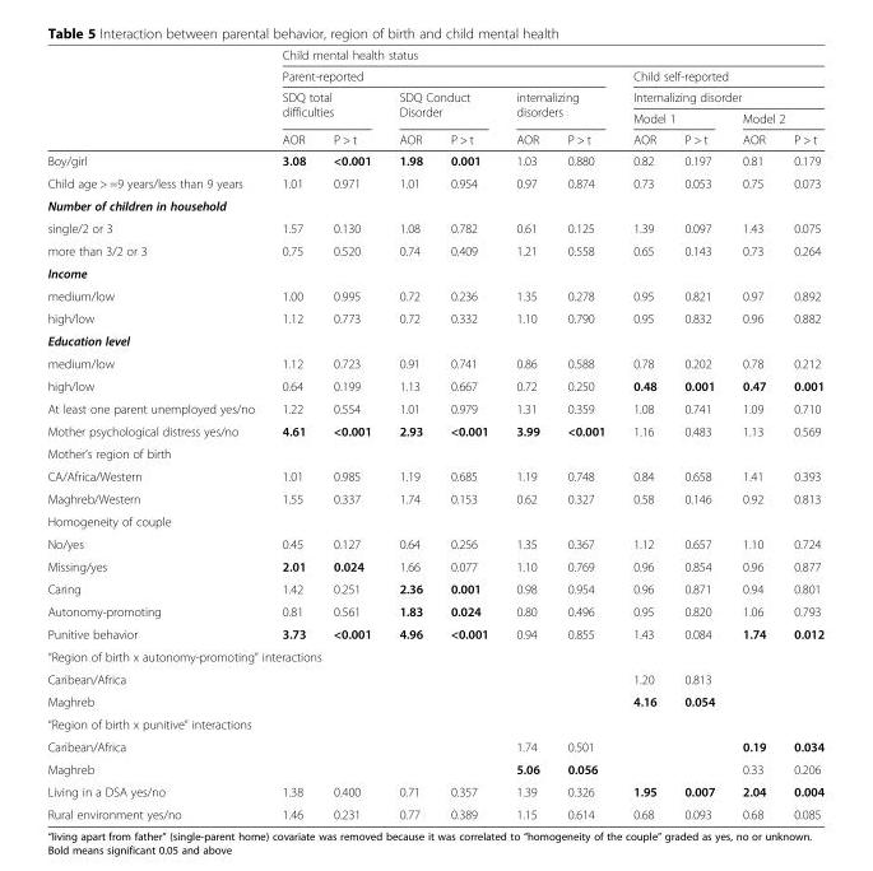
<table><thead><tr><td rowspan="5"></td><td colspan="10">Child mental health status</td></tr><tr><td colspan="6">Parent-reported</td><td rowspan="2" colspan="4">Child self-reported Internalizing disorder</td></tr><tr><td rowspan="2" colspan="2">SDQ total difficulties</td><td rowspan="2" colspan="2">SDQ Conduct Disorder</td><td rowspan="2" colspan="2">internalizing disorders</td></tr><tr><td colspan="2">Model 1</td><td colspan="2">Model 2</td></tr><tr><td>AOR</td><td>P &gt; t</td><td>AOR</td><td>P &gt; t</td><td>AOR</td><td>P &gt; t</td><td>AOR</td><td>P &gt; t</td><td>AOR</td><td>P &gt; t</td></tr></thead><tbody><tr><td>Boy/girl</td><td>3.08</td><td>&lt;0.001</td><td>1.98</td><td>0.001</td><td>1.03</td><td>0.880</td><td>0.82</td><td>0.197</td><td>0.81</td><td>0.179</td></tr><tr><td>Child age &gt; =9 years/less than 9 years</td><td>1.01</td><td>0.971</td><td>1.01</td><td>0.954</td><td>0.97</td><td>0.874</td><td>0.73</td><td>0.053</td><td>0.75</td><td>0.073</td></tr><tr><td colspan="11">Number of children in household</td></tr><tr><td>single/2 or 3</td><td>1.57</td><td>0.130</td><td>1.08</td><td>0.782</td><td>0.61</td><td>0.125</td><td>1.39</td><td>0.097</td><td>1.43</td><td>0.075</td></tr><tr><td>more than 3/2 or 3</td><td>0.75</td><td>0.520</td><td>0.74</td><td>0.409</td><td>1.21</td><td>0.558</td><td>0.65</td><td>0.143</td><td>0.73</td><td>0.264</td></tr><tr><td colspan="11">Income</td></tr><tr><td>medium/low</td><td>1.00</td><td>0.995</td><td>0.72</td><td>0.236</td><td>1.35</td><td>0.278</td><td>0.95</td><td>0.821</td><td>0.97</td><td>0.892</td></tr><tr><td>high/low</td><td>1.12</td><td>0.773</td><td>0.72</td><td>0.332</td><td>1.10</td><td>0.790</td><td>0.95</td><td>0.832</td><td>0.96</td><td>0.882</td></tr><tr><td colspan="11">Education level</td></tr><tr><td>medium/low</td><td>1.12</td><td>0.723</td><td>0.91</td><td>0.741</td><td>0.86</td><td>0.588</td><td>0.78</td><td>0.202</td><td>0.78</td><td>0.212</td></tr><tr><td>high/low</td><td>0.64</td><td>0.199</td><td>1.13</td><td>0.667</td><td>0.72</td><td>0.250</td><td>0.48</td><td>0.001</td><td>0.47</td><td>0.001</td></tr><tr><td>At least one parent unemployed yes/no</td><td>1.22</td><td>0.554</td><td>1.01</td><td>0.979</td><td>1.31</td><td>0.359</td><td>1.08</td><td>0.741</td><td>1.09</td><td>0.710</td></tr><tr><td>Mother psychological distress yes/no</td><td>4.61</td><td>&lt;0.001</td><td>2.93</td><td>&lt;0.001</td><td>3.99</td><td>&lt;0.001</td><td>1.16</td><td>0.483</td><td>1.13</td><td>0.569</td></tr><tr><td colspan="11">Mother’s region of birth</td></tr><tr><td>CA/Africa/Western</td><td>1.01</td><td>0.985</td><td>1.19</td><td>0.685</td><td>1.19</td><td>0.748</td><td>0.84</td><td>0.658</td><td>1.41</td><td>0.393</td></tr><tr><td>Maghreb/Western</td><td>1.55</td><td>0.337</td><td>1.74</td><td>0.153</td><td>0.62</td><td>0.327</td><td>0.58</td><td>0.146</td><td>0.92</td><td>0.813</td></tr><tr><td colspan="11">Homogeneity of couple</td></tr><tr><td>No/yes</td><td>0.45</td><td>0.127</td><td>0.64</td><td>0.256</td><td>1.35</td><td>0.367</td><td>1.12</td><td>0.657</td><td>1.10</td><td>0.724</td></tr><tr><td>Missing/yes</td><td>2.01</td><td>0.024</td><td>1.66</td><td>0.077</td><td>1.10</td><td>0.769</td><td>0.96</td><td>0.854</td><td>0.96</td><td>0.877</td></tr><tr><td>Caring</td><td>1.42</td><td>0.251</td><td>2.36</td><td>0.001</td><td>0.98</td><td>0.954</td><td>0.96</td><td>0.871</td><td>0.94</td><td>0.801</td></tr><tr><td>Autonomy-promoting</td><td>0.81</td><td>0.561</td><td>1.83</td><td>0.024</td><td>0.80</td><td>0.496</td><td>0.95</td><td>0.820</td><td>1.06</td><td>0.793</td></tr><tr><td>Punitive behavior</td><td>3.73</td><td>&lt;0.001</td><td>4.96</td><td>&lt;0.001</td><td>0.94</td><td>0.855</td><td>1.43</td><td>0.084</td><td>1.74</td><td>0.012</td></tr><tr><td colspan="11">“Region of birth x autonomy-promoting” interactions</td></tr><tr><td>Caribean/Africa</td><td></td><td></td><td></td><td></td><td></td><td></td><td>1.20</td><td>0.813</td><td></td><td></td></tr><tr><td>Maghreb</td><td></td><td></td><td></td><td></td><td></td><td></td><td>4.16</td><td>0.054</td><td></td><td></td></tr><tr><td colspan="11">“Region of birth x punitive” interactions</td></tr><tr><td>Caribean/Africa</td><td></td><td></td><td></td><td></td><td>1.74</td><td>0.501</td><td></td><td></td><td>0.19</td><td>0.034</td></tr><tr><td>Maghreb</td><td></td><td></td><td></td><td></td><td>5.06</td><td>0.056</td><td></td><td></td><td>0.33</td><td>0.206</td></tr><tr><td>Living in a DSA yes/no</td><td>1.38</td><td>0.400</td><td>0.71</td><td>0.357</td><td>1.39</td><td>0.326</td><td>1.95</td><td>0.007</td><td>2.04</td><td>0.004</td></tr><tr><td>Rural environment yes/no</td><td>1.46</td><td>0.231</td><td>0.77</td><td>0.389</td><td>1.15</td><td>0.614</td><td>0.68</td><td>0.093</td><td>0.68</td><td>0.085</td></tr></tbody></table>